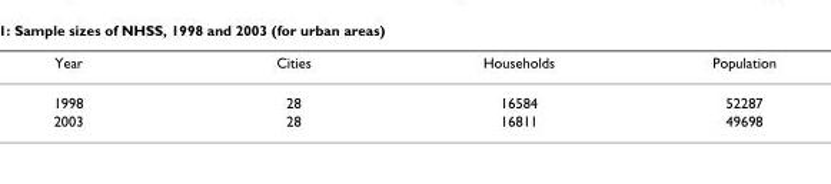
<table><thead><tr><td>Year</td><td>Cities</td><td>Households</td><td>Population</td></tr></thead><tbody><tr><td>1998</td><td>28</td><td>16584</td><td>52287</td></tr><tr><td>2003</td><td>28</td><td>16811</td><td>49698</td></tr></tbody></table>